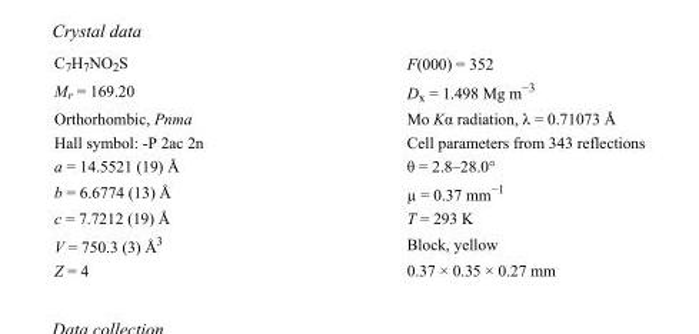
<table><tbody><tr><td>C<sub>7</sub>H<sub>7</sub>NO<sub>2</sub>S</td><td>F(000) = 352</td></tr><tr><td>M<sub>r</sub> = 169.20</td><td>D<sub>x</sub> = 1.498 Mg m<sup>−3</sup></td></tr><tr><td>Orthorhombic, Pnma</td><td>Mo Kα radiation, λ = 0.71073 Å</td></tr><tr><td>Hall symbol: -P 2ac 2n</td><td>Cell parameters from 343 reflections</td></tr><tr><td>a = 14.5521 (19) Å</td><td>θ = 2.8–28.0°</td></tr><tr><td>b = 6.6774 (13) Å</td><td>µ = 0.37 mm<sup>−1</sup></td></tr><tr><td>c = 7.7212 (19) Å</td><td>T = 293 K</td></tr><tr><td>V = 750.3 (3) Å<sup>3</sup></td><td>Block, yellow</td></tr><tr><td>Z = 4</td><td>0.37 × 0.35 × 0.27 mm</td></tr></tbody></table>